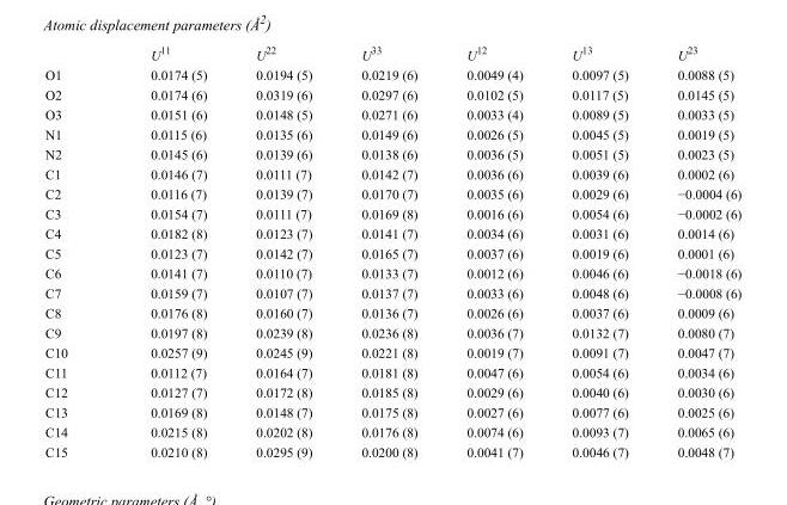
<table><thead><tr><td></td><td>U<sup>11</sup></td><td>U<sup>22</sup></td><td>U<sup>33</sup></td><td>U<sup>12</sup></td><td>U<sup>13</sup></td><td>U<sup>23</sup></td></tr></thead><tbody><tr><td>O1</td><td>0.0174 (5)</td><td>0.0194 (5)</td><td>0.0219 (6)</td><td>0.0049 (4)</td><td>0.0097 (5)</td><td>0.0088 (5)</td></tr><tr><td>O2</td><td>0.0174 (6)</td><td>0.0319 (6)</td><td>0.0297 (6)</td><td>0.0102 (5)</td><td>0.0117 (5)</td><td>0.0145 (5)</td></tr><tr><td>O3</td><td>0.0151 (6)</td><td>0.0148 (5)</td><td>0.0271 (6)</td><td>0.0033 (4)</td><td>0.0089 (5)</td><td>0.0033 (5)</td></tr><tr><td>N1</td><td>0.0115 (6)</td><td>0.0135 (6)</td><td>0.0149 (6)</td><td>0.0026 (5)</td><td>0.0045 (5)</td><td>0.0019 (5)</td></tr><tr><td>N2</td><td>0.0145 (6)</td><td>0.0139 (6)</td><td>0.0138 (6)</td><td>0.0036 (5)</td><td>0.0051 (5)</td><td>0.0023 (5)</td></tr><tr><td>C1</td><td>0.0146 (7)</td><td>0.0111 (7)</td><td>0.0142 (7)</td><td>0.0036 (6)</td><td>0.0039 (6)</td><td>0.0002 (6)</td></tr><tr><td>C2</td><td>0.0116 (7)</td><td>0.0139 (7)</td><td>0.0170 (7)</td><td>0.0035 (6)</td><td>0.0029 (6)</td><td>−0.0004 (6)</td></tr><tr><td>C3</td><td>0.0154 (7)</td><td>0.0111 (7)</td><td>0.0169 (8)</td><td>0.0016 (6)</td><td>0.0054 (6)</td><td>−0.0002 (6)</td></tr><tr><td>C4</td><td>0.0182 (8)</td><td>0.0123 (7)</td><td>0.0141 (7)</td><td>0.0034 (6)</td><td>0.0031 (6)</td><td>0.0014 (6)</td></tr><tr><td>C5</td><td>0.0123 (7)</td><td>0.0142 (7)</td><td>0.0165 (7)</td><td>0.0037 (6)</td><td>0.0019 (6)</td><td>0.0001 (6)</td></tr><tr><td>C6</td><td>0.0141 (7)</td><td>0.0110 (7)</td><td>0.0133 (7)</td><td>0.0012 (6)</td><td>0.0046 (6)</td><td>−0.0018 (6)</td></tr><tr><td>C7</td><td>0.0159 (7)</td><td>0.0107 (7)</td><td>0.0137 (7)</td><td>0.0033 (6)</td><td>0.0048 (6)</td><td>−0.0008 (6)</td></tr><tr><td>C8</td><td>0.0176 (8)</td><td>0.0160 (7)</td><td>0.0136 (7)</td><td>0.0026 (6)</td><td>0.0037 (6)</td><td>0.0009 (6)</td></tr><tr><td>C9</td><td>0.0197 (8)</td><td>0.0239 (8)</td><td>0.0236 (8)</td><td>0.0036 (7)</td><td>0.0132 (7)</td><td>0.0080 (7)</td></tr><tr><td>C10</td><td>0.0257 (9)</td><td>0.0245 (9)</td><td>0.0221 (8)</td><td>0.0019 (7)</td><td>0.0091 (7)</td><td>0.0047 (7)</td></tr><tr><td>C11</td><td>0.0112 (7)</td><td>0.0164 (7)</td><td>0.0181 (8)</td><td>0.0047 (6)</td><td>0.0054 (6)</td><td>0.0034 (6)</td></tr><tr><td>C12</td><td>0.0127 (7)</td><td>0.0172 (8)</td><td>0.0185 (8)</td><td>0.0029 (6)</td><td>0.0040 (6)</td><td>0.0030 (6)</td></tr><tr><td>C13</td><td>0.0169 (8)</td><td>0.0148 (7)</td><td>0.0175 (8)</td><td>0.0027 (6)</td><td>0.0077 (6)</td><td>0.0025 (6)</td></tr><tr><td>C14</td><td>0.0215 (8)</td><td>0.0202 (8)</td><td>0.0176 (8)</td><td>0.0074 (6)</td><td>0.0093 (7)</td><td>0.0065 (6)</td></tr><tr><td>C15</td><td>0.0210 (8)</td><td>0.0295 (9)</td><td>0.0200 (8)</td><td>0.0041 (7)</td><td>0.0046 (7)</td><td>0.0048 (7)</td></tr></tbody></table>